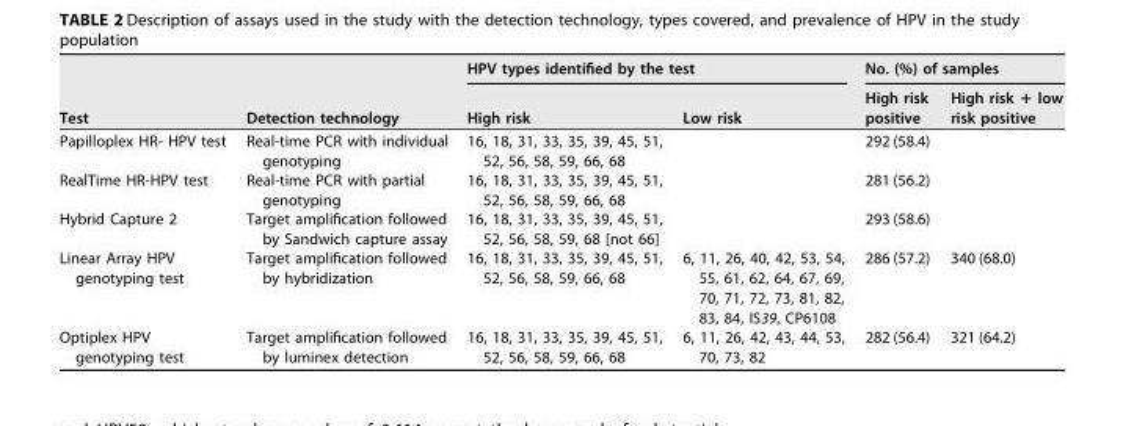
<table><thead><tr><td rowspan="2">Test</td><td rowspan="2">Detection technology</td><td colspan="2">HPV types identified by the test</td><td colspan="2">No. (%) of samples</td></tr><tr><td>High risk</td><td>Low risk</td><td>High risk positive</td><td>High risk + low risk positive</td></tr></thead><tbody><tr><td>Papilloplex HR- HPV test</td><td>Real-time PCR with individual genotyping</td><td>16, 18, 31, 33, 35, 39, 45, 51, 52, 56, 58, 59, 66, 68</td><td></td><td>292 (58.4)</td><td></td></tr><tr><td>RealTime HR-HPV test</td><td>Real-time PCR with partial genotyping</td><td>16, 18, 31, 33, 35, 39, 45, 51, 52, 56, 58, 59, 66, 68</td><td></td><td>281 (56.2)</td><td></td></tr><tr><td>Hybrid Capture 2</td><td>Target amplification followed by Sandwich capture assay</td><td>16, 18, 31, 33, 35, 39, 45, 51, 52, 56, 58, 59, 68 [not 66]</td><td></td><td>293 (58.6)</td><td></td></tr><tr><td>Linear Array HPV genotyping test</td><td>Target amplification followed by hybridization</td><td>16, 18, 31, 33, 35, 39, 45, 51, 52, 56, 58, 59, 66, 68</td><td>6, 11, 26, 40, 42, 53, 54, 55, 61, 62, 64, 67, 69, 70, 71, 72, 73, 81, 82, 83, 84, IS39, CP6108</td><td>286 (57.2)</td><td>340 (68.0)</td></tr><tr><td>Optiplex HPV genotyping test</td><td>Target amplification followed by luminex detection</td><td>16, 18, 31, 33, 35, 39, 45, 51, 52, 56, 58, 59, 66, 68</td><td>6, 11, 26, 42, 43, 44, 53, 70, 73, 82</td><td>282 (56.4)</td><td>321 (64.2)</td></tr></tbody></table>